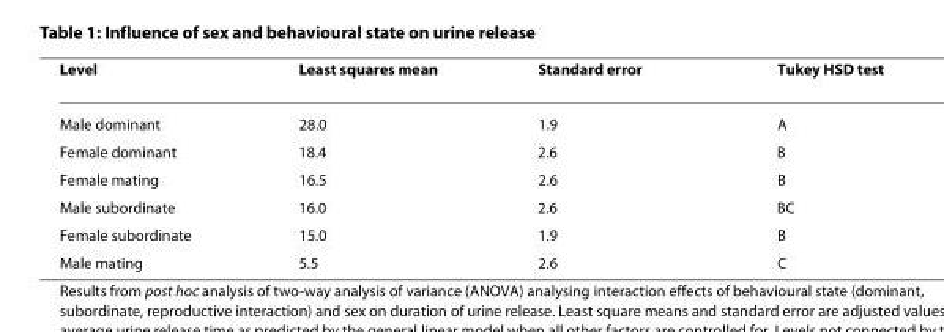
<table><thead><tr><td>Level</td><td>Least squares mean</td><td>Standard error</td><td>Tukey HSD test</td></tr></thead><tbody><tr><td>Male dominant</td><td>28.0</td><td>1.9</td><td>A</td></tr><tr><td>Female dominant</td><td>18.4</td><td>2.6</td><td>B</td></tr><tr><td>Female mating</td><td>16.5</td><td>2.6</td><td>B</td></tr><tr><td>Male subordinate</td><td>16.0</td><td>2.6</td><td>BC</td></tr><tr><td>Female subordinate</td><td>15.0</td><td>1.9</td><td>B</td></tr><tr><td>Male mating</td><td>5.5</td><td>2.6</td><td>C</td></tr></tbody></table>